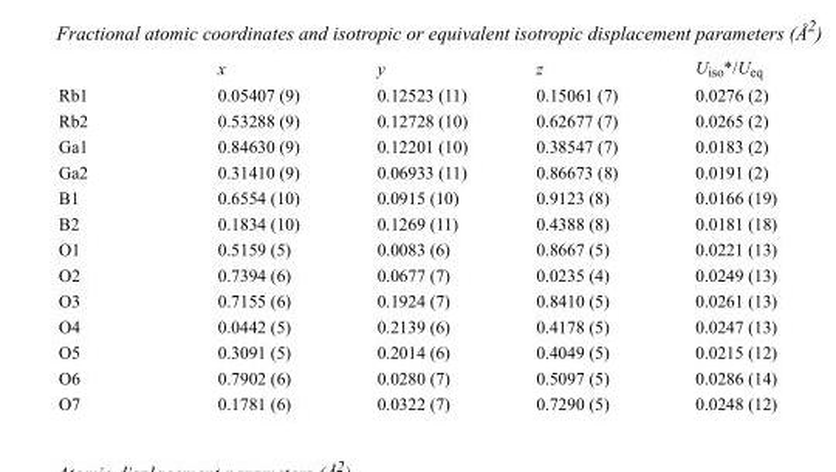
<table><thead><tr><td></td><td>x</td><td>y</td><td>z</td><td>U<sub>iso</sub>*/U<sub>eq</sub></td></tr></thead><tbody><tr><td>Rb1</td><td>0.05407 (9)</td><td>0.12523 (11)</td><td>0.15061 (7)</td><td>0.0276 (2)</td></tr><tr><td>Rb2</td><td>0.53288 (9)</td><td>0.12728 (10)</td><td>0.62677 (7)</td><td>0.0265 (2)</td></tr><tr><td>Ga1</td><td>0.84630 (9)</td><td>0.12201 (10)</td><td>0.38547 (7)</td><td>0.0183 (2)</td></tr><tr><td>Ga2</td><td>0.31410 (9)</td><td>0.06933 (11)</td><td>0.86673 (8)</td><td>0.0191 (2)</td></tr><tr><td>B1</td><td>0.6554 (10)</td><td>0.0915 (10)</td><td>0.9123 (8)</td><td>0.0166 (19)</td></tr><tr><td>B2</td><td>0.1834 (10)</td><td>0.1269 (11)</td><td>0.4388 (8)</td><td>0.0181 (18)</td></tr><tr><td>O1</td><td>0.5159 (5)</td><td>0.0083 (6)</td><td>0.8667 (5)</td><td>0.0221 (13)</td></tr><tr><td>O2</td><td>0.7394 (6)</td><td>0.0677 (7)</td><td>0.0235 (4)</td><td>0.0249 (13)</td></tr><tr><td>O3</td><td>0.7155 (6)</td><td>0.1924 (7)</td><td>0.8410 (5)</td><td>0.0261 (13)</td></tr><tr><td>O4</td><td>0.0442 (5)</td><td>0.2139 (6)</td><td>0.4178 (5)</td><td>0.0247 (13)</td></tr><tr><td>O5</td><td>0.3091 (5)</td><td>0.2014 (6)</td><td>0.4049 (5)</td><td>0.0215 (12)</td></tr><tr><td>O6</td><td>0.7902 (6)</td><td>0.0280 (7)</td><td>0.5097 (5)</td><td>0.0286 (14)</td></tr><tr><td>O7</td><td>0.1781 (6)</td><td>0.0322 (7)</td><td>0.7290 (5)</td><td>0.0248 (12)</td></tr></tbody></table>